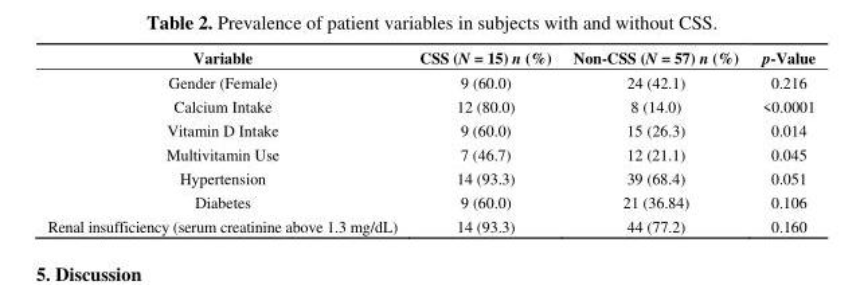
<table><thead><tr><td>Variable</td><td>CSS (N = 15) n (%)</td><td>Non-CSS (N = 57) n (%)</td><td>p-Value</td></tr></thead><tbody><tr><td>Gender (Female)</td><td>9 (60.0)</td><td>24 (42.1)</td><td>0.216</td></tr><tr><td>Calcium Intake</td><td>12 (80.0)</td><td>8 (14.0)</td><td>&lt;0.0001</td></tr><tr><td>Vitamin D Intake</td><td>9 (60.0)</td><td>15 (26.3)</td><td>0.014</td></tr><tr><td>Multivitamin Use</td><td>7 (46.7)</td><td>12 (21.1)</td><td>0.045</td></tr><tr><td>Hypertension</td><td>14 (93.3)</td><td>39 (68.4)</td><td>0.051</td></tr><tr><td>Diabetes</td><td>9 (60.0)</td><td>21 (36.84)</td><td>0.106</td></tr><tr><td>Renal insufficiency (serum creatinine above 1.3 mg/dL)</td><td>14 (93.3)</td><td>44 (77.2)</td><td>0.160</td></tr></tbody></table>